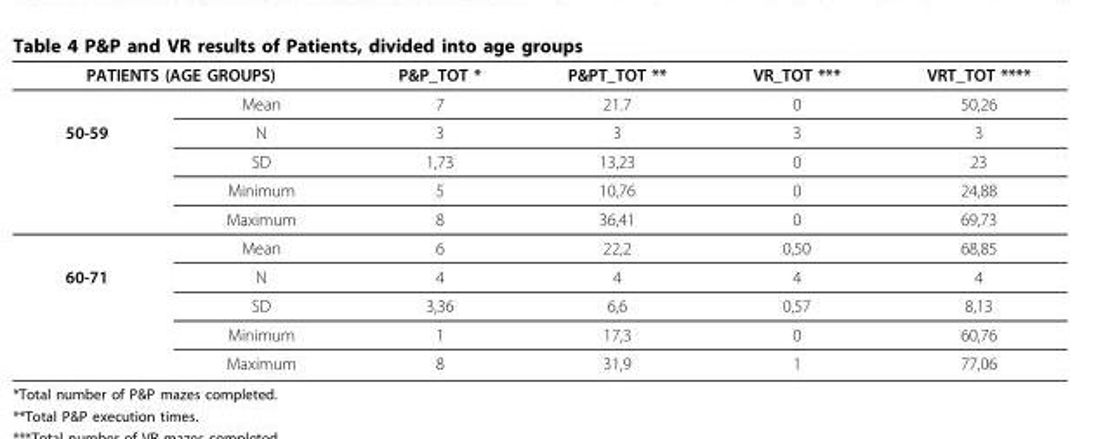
<table><thead><tr><td colspan="2">PATIENTS (AGE GROUPS)</td><td rowspan="2">P&amp;P_TOT * 7</td><td rowspan="2">P&amp;PT_TOT ** 21.7</td><td rowspan="2">VR_TOT *** 0</td><td rowspan="2">VRT_TOT **** 50,26</td></tr><tr><td></td><td>Mean</td></tr></thead><tbody><tr><td rowspan="5">50-59</td><td>N</td><td>3</td><td>3</td><td>3</td><td>3</td></tr><tr><td>SD</td><td>1,73</td><td>13,23</td><td>0</td><td>23</td></tr><tr><td>Minimum</td><td>5</td><td>10,76</td><td>0</td><td>24,88</td></tr><tr><td>Maximum</td><td>8</td><td>36,41</td><td>0</td><td>69,73</td></tr><tr><td>Mean</td><td>6</td><td>22,2</td><td>0,50</td><td>68,85</td></tr><tr><td rowspan="4">60-71</td><td>N</td><td>4</td><td>4</td><td>4</td><td>4</td></tr><tr><td>SD</td><td>3,36</td><td>6,6</td><td>0,57</td><td>8,13</td></tr><tr><td>Minimum</td><td>1</td><td>17,3</td><td>0</td><td>60,76</td></tr><tr><td>Maximum</td><td>8</td><td>31,9</td><td>1</td><td>77,06</td></tr></tbody></table>